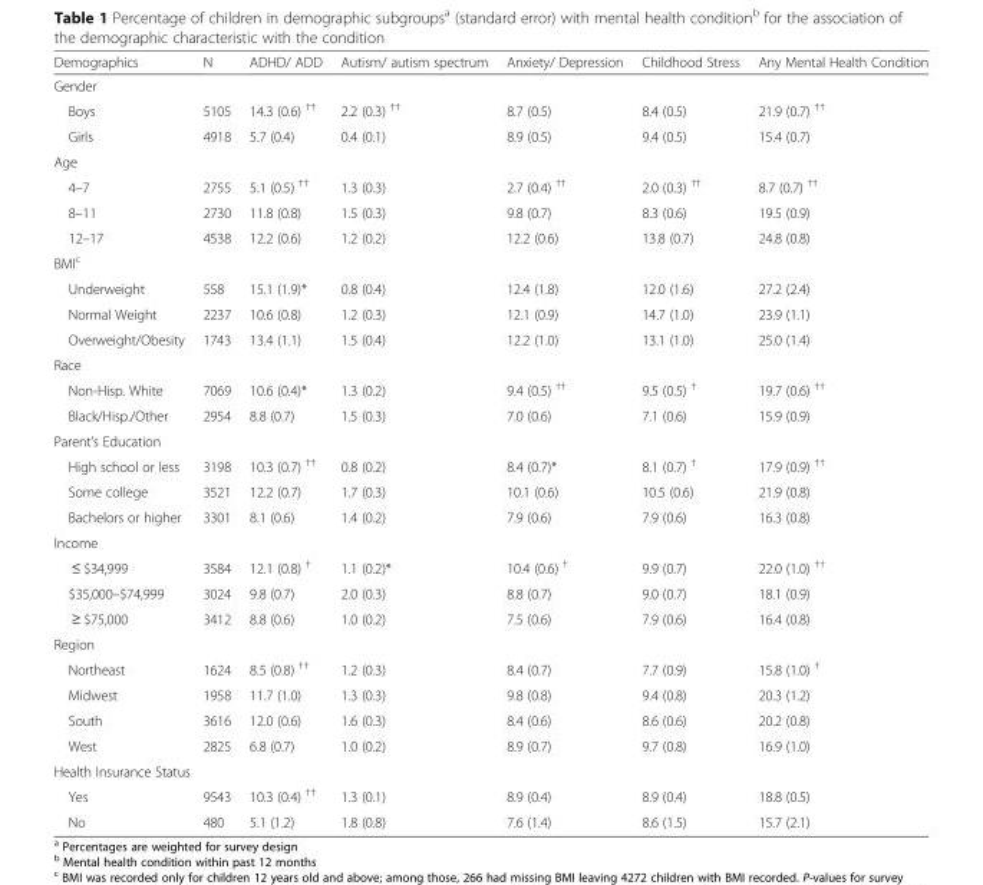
<table><thead><tr><td>Demographics</td><td>N</td><td>ADHD/ ADD</td><td>Autism/ autism spectrum</td><td>Anxiety/ Depression</td><td>Childhood Stress</td><td>Any Mental Health Condition</td></tr></thead><tbody><tr><td colspan="7">Gender</td></tr><tr><td>Boys</td><td>5105</td><td>14.3 (0.6) <sup>††</sup></td><td>2.2 (0.3) <sup>††</sup></td><td>8.7 (0.5)</td><td>8.4 (0.5)</td><td>21.9 (0.7) <sup>††</sup></td></tr><tr><td>Girls</td><td>4918</td><td>5.7 (0.4)</td><td>0.4 (0.1)</td><td>8.9 (0.5)</td><td>9.4 (0.5)</td><td>15.4 (0.7)</td></tr><tr><td colspan="7">Age</td></tr><tr><td>4–7</td><td>2755</td><td>5.1 (0.5) <sup>††</sup></td><td>1.3 (0.3)</td><td>2.7 (0.4) <sup>††</sup></td><td>2.0 (0.3) <sup>††</sup></td><td>8.7 (0.7) <sup>††</sup></td></tr><tr><td>8–11</td><td>2730</td><td>11.8 (0.8)</td><td>1.5 (0.3)</td><td>9.8 (0.7)</td><td>8.3 (0.6)</td><td>19.5 (0.9)</td></tr><tr><td>12–17</td><td>4538</td><td>12.2 (0.6)</td><td>1.2 (0.2)</td><td>12.2 (0.6)</td><td>13.8 (0.7)</td><td>24.8 (0.8)</td></tr><tr><td colspan="7">BMI<sup>c</sup></td></tr><tr><td>Underweight</td><td>558</td><td>15.1 (1.9)*</td><td>0.8 (0.4)</td><td>12.4 (1.8)</td><td>12.0 (1.6)</td><td>27.2 (2.4)</td></tr><tr><td>Normal Weight</td><td>2237</td><td>10.6 (0.8)</td><td>1.2 (0.3)</td><td>12.1 (0.9)</td><td>14.7 (1.0)</td><td>23.9 (1.1)</td></tr><tr><td>Overweight/Obesity</td><td>1743</td><td>13.4 (1.1)</td><td>1.5 (0.4)</td><td>12.2 (1.0)</td><td>13.1 (1.0)</td><td>25.0 (1.4)</td></tr><tr><td colspan="7">Race</td></tr><tr><td>Non-Hisp. White</td><td>7069</td><td>10.6 (0.4)*</td><td>1.3 (0.2)</td><td>9.4 (0.5) <sup>††</sup></td><td>9.5 (0.5) <sup>†</sup></td><td>19.7 (0.6) <sup>††</sup></td></tr><tr><td>Black/Hisp./Other</td><td>2954</td><td>8.8 (0.7)</td><td>1.5 (0.3)</td><td>7.0 (0.6)</td><td>7.1 (0.6)</td><td>15.9 (0.9)</td></tr><tr><td colspan="7">Parent’s Education</td></tr><tr><td>High school or less</td><td>3198</td><td>10.3 (0.7) <sup>††</sup></td><td>0.8 (0.2)</td><td>8.4 (0.7)*</td><td>8.1 (0.7) <sup>†</sup></td><td>17.9 (0.9) <sup>††</sup></td></tr><tr><td>Some college</td><td>3521</td><td>12.2 (0.7)</td><td>1.7 (0.3)</td><td>10.1 (0.6)</td><td>10.5 (0.6)</td><td>21.9 (0.8)</td></tr><tr><td>Bachelors or higher</td><td>3301</td><td>8.1 (0.6)</td><td>1.4 (0.2)</td><td>7.9 (0.6)</td><td>7.9 (0.6)</td><td>16.3 (0.8)</td></tr><tr><td colspan="7">Income</td></tr><tr><td>≤ $34,999</td><td>3584</td><td>12.1 (0.8) <sup>†</sup></td><td>1.1 (0.2)*</td><td>10.4 (0.6) <sup>†</sup></td><td>9.9 (0.7)</td><td>22.0 (1.0) <sup>††</sup></td></tr><tr><td>$35,000–$74,999</td><td>3024</td><td>9.8 (0.7)</td><td>2.0 (0.3)</td><td>8.8 (0.7)</td><td>9.0 (0.7)</td><td>18.1 (0.9)</td></tr><tr><td>≥ $75,000</td><td>3412</td><td>8.8 (0.6)</td><td>1.0 (0.2)</td><td>7.5 (0.6)</td><td>7.9 (0.6)</td><td>16.4 (0.8)</td></tr><tr><td colspan="7">Region</td></tr><tr><td>Northeast</td><td>1624</td><td>8.5 (0.8) <sup>††</sup></td><td>1.2 (0.3)</td><td>8.4 (0.7)</td><td>7.7 (0.9)</td><td>15.8 (1.0) <sup>†</sup></td></tr><tr><td>Midwest</td><td>1958</td><td>11.7 (1.0)</td><td>1.3 (0.3)</td><td>9.8 (0.8)</td><td>9.4 (0.8)</td><td>20.3 (1.2)</td></tr><tr><td>South</td><td>3616</td><td>12.0 (0.6)</td><td>1.6 (0.3)</td><td>8.4 (0.6)</td><td>8.6 (0.6)</td><td>20.2 (0.8)</td></tr><tr><td>West</td><td>2825</td><td>6.8 (0.7)</td><td>1.0 (0.2)</td><td>8.9 (0.7)</td><td>9.7 (0.8)</td><td>16.9 (1.0)</td></tr><tr><td colspan="7">Health Insurance Status</td></tr><tr><td>Yes</td><td>9543</td><td>10.3 (0.4) <sup>††</sup></td><td>1.3 (0.1)</td><td>8.9 (0.4)</td><td>8.9 (0.4)</td><td>18.8 (0.5)</td></tr><tr><td>No</td><td>480</td><td>5.1 (1.2)</td><td>1.8 (0.8)</td><td>7.6 (1.4)</td><td>8.6 (1.5)</td><td>15.7 (2.1)</td></tr></tbody></table>